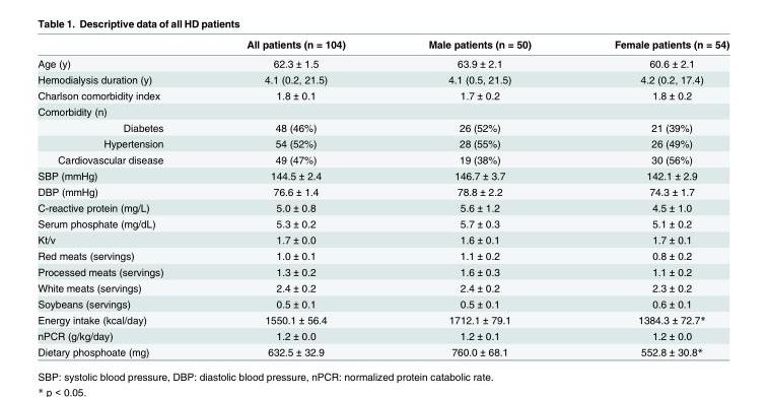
<table><thead><tr><td></td><td>All patients (n = 104)</td><td>Male patients (n = 50)</td><td>Female patients (n = 54)</td></tr></thead><tbody><tr><td>Age (y)</td><td>62.3 ± 1.5</td><td>63.9 ± 2.1</td><td>60.6 ± 2.1</td></tr><tr><td>Hemodialysis duration (y)</td><td>4.1 (0.2, 21.5)</td><td>4.1 (0.5, 21.5)</td><td>4.2 (0.2, 17.4)</td></tr><tr><td>Charlson comorbidity index</td><td>1.8 ± 0.1</td><td>1.7 ± 0.2</td><td>1.8 ± 0.2</td></tr><tr><td colspan="4">Comorbidity (n)</td></tr><tr><td>Diabetes</td><td>48 (46%)</td><td>26 (52%)</td><td>21 (39%)</td></tr><tr><td>Hypertension</td><td>54 (52%)</td><td>28 (55%)</td><td>26 (49%)</td></tr><tr><td>Cardiovascular disease</td><td>49 (47%)</td><td>19 (38%)</td><td>30 (56%)</td></tr><tr><td>SBP (mmHg)</td><td>144.5 ± 2.4</td><td>146.7 ± 3.7</td><td>142.1 ± 2.9</td></tr><tr><td>DBP (mmHg)</td><td>76.6 ± 1.4</td><td>78.8 ± 2.2</td><td>74.3 ± 1.7</td></tr><tr><td>C-reactive protein (mg/L)</td><td>5.0 ± 0.8</td><td>5.6 ± 1.2</td><td>4.5 ± 1.0</td></tr><tr><td>Serum phosphate (mg/dL)</td><td>5.3 ± 0.2</td><td>5.7 ± 0.3</td><td>5.1 ± 0.2</td></tr><tr><td>Kt/v</td><td>1.7 ± 0.0</td><td>1.6 ± 0.1</td><td>1.7 ± 0.1</td></tr><tr><td>Red meats (servings)</td><td>1.0 ± 0.1</td><td>1.1 ± 0.2</td><td>0.8 ± 0.2</td></tr><tr><td>Processed meats (servings)</td><td>1.3 ± 0.2</td><td>1.6 ± 0.3</td><td>1.1 ± 0.2</td></tr><tr><td>White meats (servings)</td><td>2.4 ± 0.2</td><td>2.4 ± 0.2</td><td>2.3 ± 0.2</td></tr><tr><td>Soybeans (servings)</td><td>0.5 ± 0.1</td><td>0.5 ± 0.1</td><td>0.6 ± 0.1</td></tr><tr><td>Energy intake (kcal/day)</td><td>1550.1 ± 56.4</td><td>1712.1 ± 79.1</td><td>1384.3 ± 72.7*</td></tr><tr><td>nPCR (g/kg/day)</td><td>1.2 ± 0.0</td><td>1.2 ± 0.1</td><td>1.2 ± 0.0</td></tr><tr><td>Dietary phosphoate (mg)</td><td>632.5 ± 32.9</td><td>760.0 ± 68.1</td><td>552.8 ± 30.8*</td></tr></tbody></table>